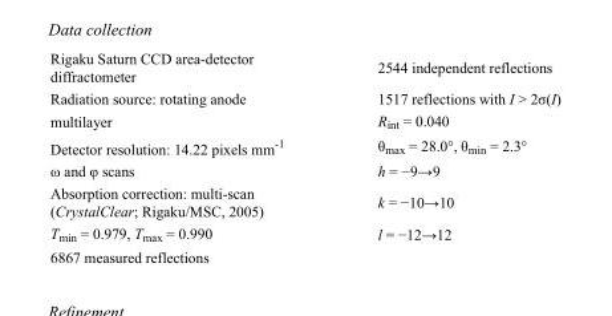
<table><tbody><tr><td>Rigaku Saturn CCD area-detector diffractometer</td><td>2544 independent reflections</td></tr><tr><td>Radiation source: rotating anode</td><td>1517 reflections with I &gt; 2σ(I)</td></tr><tr><td>multilayer</td><td>R<sub>int</sub> = 0.040</td></tr><tr><td>Detector resolution: 14.22 pixels mm<sup>-1</sup></td><td>θ<sub>max</sub> = 28.0°, θ<sub>min</sub> = 2.3°</td></tr><tr><td>ω and φ scans</td><td>h = −9→9</td></tr><tr><td>Absorption correction: multi-scan (CrystalClear; Rigaku/MSC, 2005)</td><td>k = −10→10</td></tr><tr><td>T<sub>min</sub> = 0.979, T<sub>max</sub> = 0.990</td><td>l = −12→12</td></tr><tr><td>6867 measured reflections</td><td></td></tr></tbody></table>